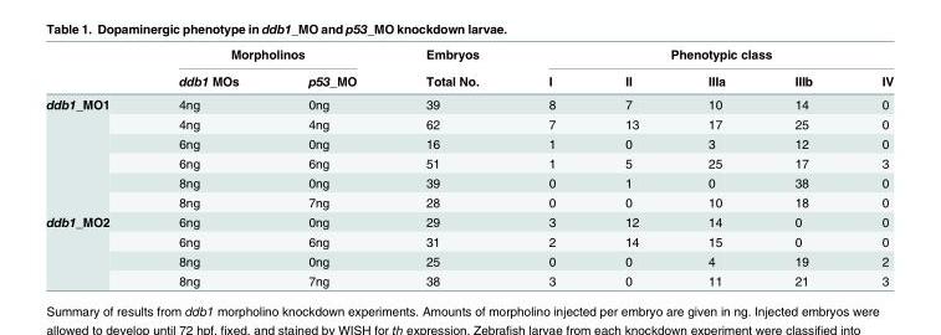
<table><thead><tr><td rowspan="2"></td><td colspan="2">Morpholinos</td><td rowspan="2">Embryos Total No.</td><td colspan="5">Phenotypic class</td></tr><tr><td>ddb1 MOs</td><td>p53_MO</td><td>I</td><td>II</td><td>IIIa</td><td>IIIb</td><td>IV</td></tr></thead><tbody><tr><td rowspan="6">ddb1_MO1</td><td>4ng</td><td>0ng</td><td>39</td><td>8</td><td>7</td><td>10</td><td>14</td><td>0</td></tr><tr><td>4ng</td><td>4ng</td><td>62</td><td>7</td><td>13</td><td>17</td><td>25</td><td>0</td></tr><tr><td>6ng</td><td>0ng</td><td>16</td><td>1</td><td>0</td><td>3</td><td>12</td><td>0</td></tr><tr><td>6ng</td><td>6ng</td><td>51</td><td>1</td><td>5</td><td>25</td><td>17</td><td>3</td></tr><tr><td>8ng</td><td>0ng</td><td>39</td><td>0</td><td>1</td><td>0</td><td>38</td><td>0</td></tr><tr><td>8ng</td><td>7ng</td><td>28</td><td>0</td><td>0</td><td>10</td><td>18</td><td>0</td></tr><tr><td rowspan="4">ddb1_MO2</td><td>6ng</td><td>0ng</td><td>29</td><td>3</td><td>12</td><td>14</td><td>0</td><td>0</td></tr><tr><td>6ng</td><td>6ng</td><td>31</td><td>2</td><td>14</td><td>15</td><td>0</td><td>0</td></tr><tr><td>8ng</td><td>0ng</td><td>25</td><td>0</td><td>0</td><td>4</td><td>19</td><td>2</td></tr><tr><td>8ng</td><td>7ng</td><td>38</td><td>3</td><td>0</td><td>11</td><td>21</td><td>3</td></tr></tbody></table>